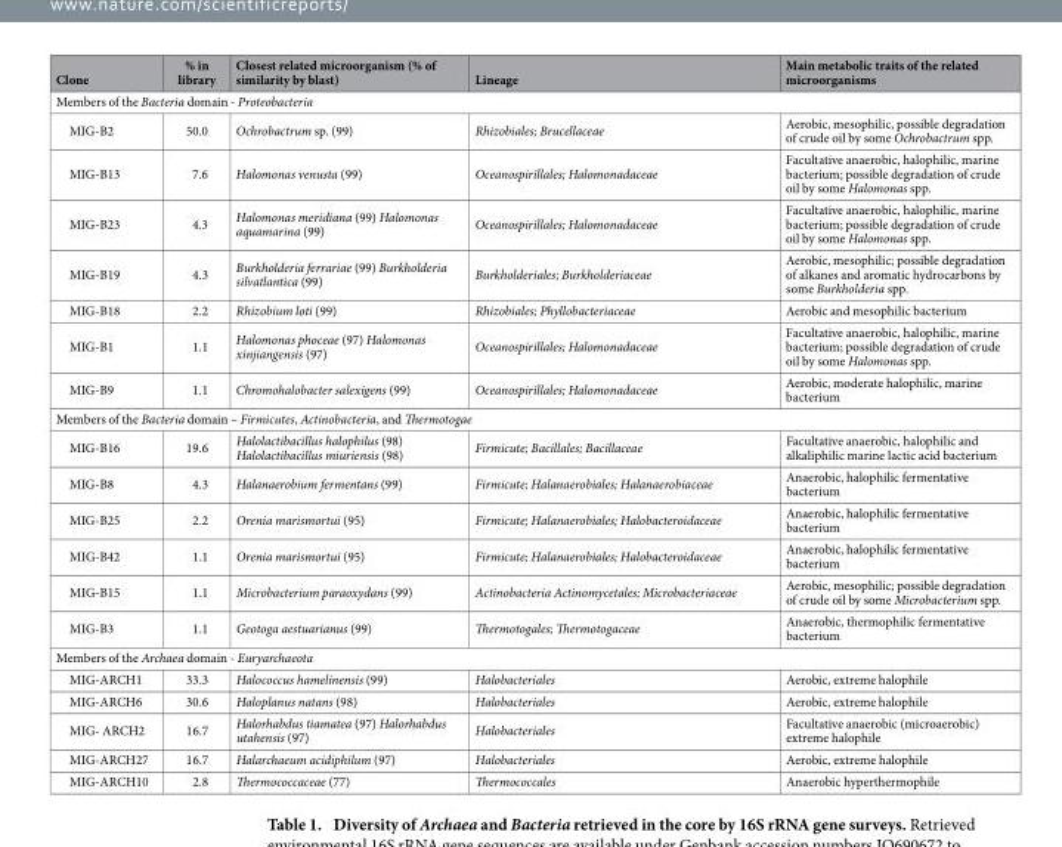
<table><thead><tr><td>Clone</td><td>% in library</td><td>Closest related microorganism (% of similarity by blast)</td><td>Lineage</td><td>Main metabolic traits of the related microorganisms</td></tr></thead><tbody><tr><td colspan="5">Members of the Bacteria domain - Proteobacteria</td></tr><tr><td>MIG-B2</td><td>50.0</td><td>Ochrobactrum sp. (99)</td><td>Rhizobiales; Brucellaceae</td><td>Aerobic, mesophilic, possible degradation of crude oil by some Ochrobactrum spp.</td></tr><tr><td>MIG-B13</td><td>7.6</td><td>Halomonas venusta (99)</td><td>Oceanospirillales; Halomonadaceae</td><td>Facultative anaerobic, halophilic, marine bacterium; possible degradation of crude oil by some Halomonas spp.</td></tr><tr><td>MIG-B23</td><td>4.3</td><td>Halomonas meridiana (99) Halomonas aquamarina (99)</td><td>Oceanospirillales; Halomonadaceae</td><td>Facultative anaerobic, halophilic, marine bacterium; possible degradation of crude oil by some Halomonas spp.</td></tr><tr><td>MIG-B19</td><td>4.3</td><td>Burkholderia ferrariae (99) Burkholderia silvatlantica (99)</td><td>Burkholderiales; Burkholderiaceae</td><td>Aerobic, mesophilic; possible degradation of alkanes and aromatic hydrocarbons by some Burkholderia spp.</td></tr><tr><td>MIG-B18</td><td>2.2</td><td>Rhizobium loti (99)</td><td>Rhizobiales; Phyllobacteriaceae</td><td>Aerobic and mesophilic bacterium</td></tr><tr><td>MIG-B1</td><td>1.1</td><td>Halomonas phoceae (97) Halomonas xinjiangensis (97)</td><td>Oceanospirillales; Halomonadaceae</td><td>Facultative anaerobic, halophilic, marine bacterium; possible degradation of crude oil by some Halomonas spp.</td></tr><tr><td>MIG-B9</td><td>1.1</td><td>Chromohalobacter salexigens (99)</td><td>Oceanospirillales; Halomonadaceae</td><td>Aerobic, moderate halophilic, marine bacterium</td></tr><tr><td colspan="5">Members of the Bacteria domain – Firmicutes, Actinobacteria, and Thermotogae</td></tr><tr><td>MIG-B16</td><td>19.6</td><td>Halolactibacillus halophilus (98) Halolactibacillus miuriensis (98)</td><td>Firmicute; Bacillales; Bacillaceae</td><td>Facultative anaerobic, halophilic and alkaliphilic marine lactic acid bacterium</td></tr><tr><td>MIG-B8</td><td>4.3</td><td>Halanaerobium fermentans (99)</td><td>Firmicute; Halanaerobiales; Halanaerobiaceae</td><td>Anaerobic, halophilic fermentative bacterium</td></tr><tr><td>MIG-B25</td><td>2.2</td><td>Orenia marismortui (95)</td><td>Firmicute; Halanaerobiales; Halobacteroidaceae</td><td>Anaerobic, halophilic fermentative bacterium</td></tr><tr><td>MIG-B42</td><td>1.1</td><td>Orenia marismortui (95)</td><td>Firmicute; Halanaerobiales; Halobacteroidaceae</td><td>Anaerobic, halophilic fermentative bacterium</td></tr><tr><td>MIG-B15</td><td>1.1</td><td>Microbacterium paraoxydans (99)</td><td>Actinobacteria Actinomycetales; Microbacteriaceae</td><td>Aerobic, mesophilic; possible degradation of crude oil by some Microbacterium spp.</td></tr><tr><td>MIG-B3</td><td>1.1</td><td>Geotoga aestuarianus (99)</td><td>Thermotogales; Thermotogaceae</td><td>Anaerobic, thermophilic fermentative bacterium</td></tr><tr><td colspan="5">Members of the Archaea domain - Euryarchaeota</td></tr><tr><td>MIG-ARCH1</td><td>33.3</td><td>Halococcus hamelinensis (99)</td><td>Halobacteriales</td><td>Aerobic, extreme halophile</td></tr><tr><td>MIG-ARCH6</td><td>30.6</td><td>Haloplanus natans (98)</td><td>Halobacteriales</td><td>Aerobic, extreme halophile</td></tr><tr><td>MIG- ARCH2</td><td>16.7</td><td>Halorhabdus tiamatea (97) Halorhabdus utahensis (97)</td><td>Halobacteriales</td><td>Facultative anaerobic (microaerobic) extreme halophile</td></tr><tr><td>MIG-ARCH27</td><td>16.7</td><td>Halarchaeum acidiphilum (97)</td><td>Halobacteriales</td><td>Aerobic, extreme halophile</td></tr><tr><td>MIG-ARCH10</td><td>2.8</td><td>Thermococcaceae (77)</td><td>Thermococcales</td><td>Anaerobic hyperthermophile</td></tr></tbody></table>